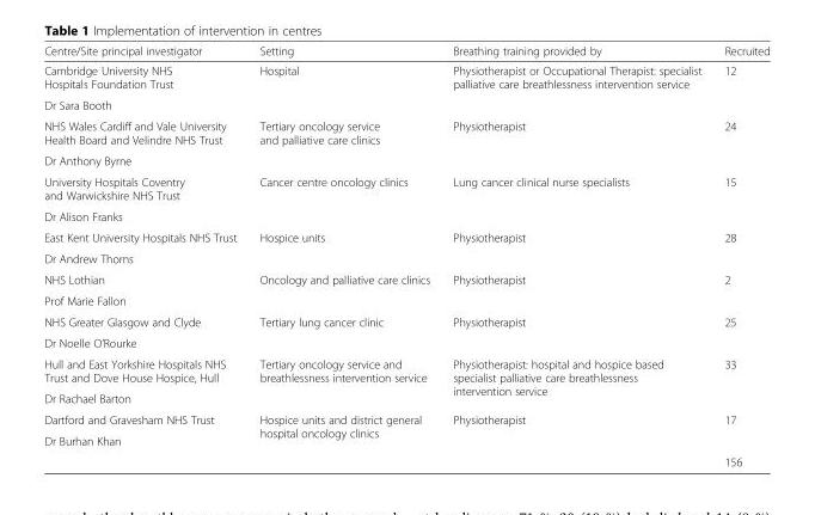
<table><thead><tr><td>Centre/Site principal investigator</td><td>Setting</td><td>Breathing training provided by</td><td>Recruited</td></tr></thead><tbody><tr><td>Cambridge University NHS Hospitals Foundation Trust</td><td rowspan="2">Hospital</td><td rowspan="2">Physiotherapist or Occupational Therapist: specialist palliative care breathlessness intervention service</td><td rowspan="2">12</td></tr><tr><td>Dr Sara Booth</td></tr><tr><td>NHS Wales Cardiff and Vale University Health Board and Velindre NHS Trust</td><td rowspan="2">Tertiary oncology service and palliative care clinics</td><td rowspan="2">Physiotherapist</td><td rowspan="2">24</td></tr><tr><td>Dr Anthony Byrne</td></tr><tr><td>University Hospitals Coventry and Warwickshire NHS Trust</td><td rowspan="2">Cancer centre oncology clinics</td><td rowspan="2">Lung cancer clinical nurse specialists</td><td rowspan="2">15</td></tr><tr><td>Dr Alison Franks</td></tr><tr><td>East Kent University Hospitals NHS Trust</td><td rowspan="2">Hospice units</td><td rowspan="2">Physiotherapist</td><td rowspan="2">28</td></tr><tr><td>Dr Andrew Thorns</td></tr><tr><td>NHS Lothian</td><td rowspan="2">Oncology and palliative care clinics</td><td rowspan="2">Physiotherapist</td><td rowspan="2">2</td></tr><tr><td>Prof Marie Fallon</td></tr><tr><td>NHS Greater Glasgow and Clyde</td><td rowspan="2">Tertiary lung cancer clinic</td><td rowspan="2">Physiotherapist</td><td rowspan="2">25</td></tr><tr><td>Dr Noelle O’Rourke</td></tr><tr><td>Hull and East Yorkshire Hospitals NHS Trust and Dove House Hospice, Hull</td><td rowspan="2">Tertiary oncology service and breathlessness intervention service</td><td rowspan="2">Physiotherapist: hospital and hospice based specialist palliative care breathlessness intervention service</td><td rowspan="2">33</td></tr><tr><td>Dr Rachael Barton</td></tr><tr><td>Dartford and Gravesham NHS Trust</td><td rowspan="2">Hospice units and district general hospital oncology clinics</td><td rowspan="2">Physiotherapist</td><td rowspan="2">17</td></tr><tr><td rowspan="2">Dr Burhan Khan</td></tr><tr><td></td><td></td><td>156</td></tr></tbody></table>